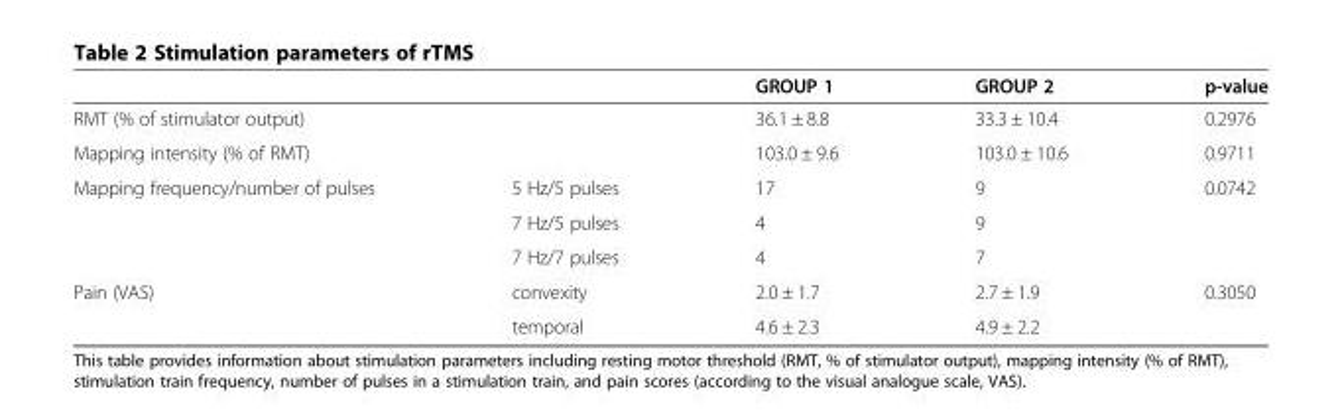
<table><thead><tr><td></td><td></td><td>GROUP 1</td><td>GROUP 2</td><td>p-value</td></tr></thead><tbody><tr><td colspan="2">RMT (% of stimulator output)</td><td>36.1 ± 8.8</td><td>33.3 ± 10.4</td><td>0.2976</td></tr><tr><td colspan="2">Mapping intensity (% of RMT)</td><td>103.0 ± 9.6</td><td>103.0 ± 10.6</td><td>0.9711</td></tr><tr><td rowspan="3">Mapping frequency/number of pulses</td><td>5 Hz/5 pulses</td><td>17</td><td>9</td><td rowspan="3">0.0742</td></tr><tr><td>7 Hz/5 pulses</td><td>4</td><td>9</td></tr><tr><td>7 Hz/7 pulses</td><td>4</td><td>7</td></tr><tr><td rowspan="2">Pain (VAS)</td><td>convexity</td><td>2.0 ± 1.7</td><td>2.7 ± 1.9</td><td rowspan="2">0.3050</td></tr><tr><td>temporal</td><td>4.6 ± 2.3</td><td>4.9 ± 2.2</td></tr></tbody></table>